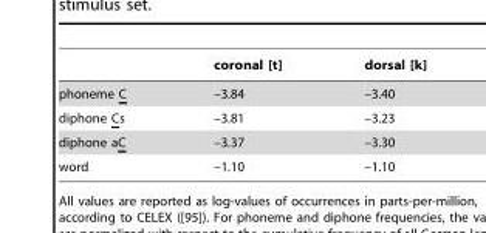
<table><thead><tr><td></td><td>coronal [t]</td><td>dorsal [k]</td></tr></thead><tbody><tr><td>phoneme C</td><td>–3.84</td><td>–3.40</td></tr><tr><td>diphone Cs</td><td>–3.81</td><td>–3.23</td></tr><tr><td>diphone aC</td><td>–3.37</td><td>–3.30</td></tr><tr><td>word</td><td>–1.10</td><td>–1.10</td></tr></tbody></table>